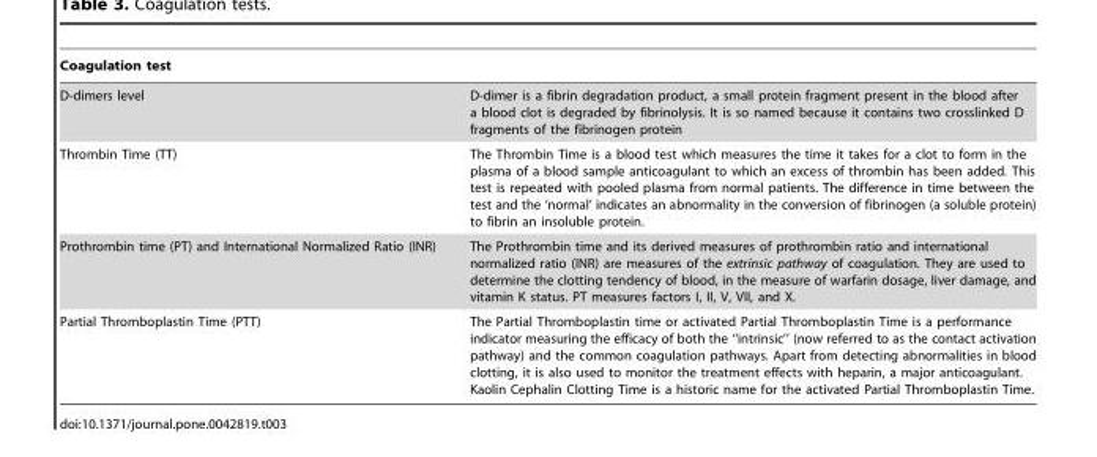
<table><thead><tr><td>Coagulation test</td><td></td></tr></thead><tbody><tr><td>D-dimers level</td><td>D-dimer is a fibrin degradation product, a small protein fragment present in the blood after a blood clot is degraded by fibrinolysis. It is so named because it contains two crosslinked D fragments of the fibrinogen protein</td></tr><tr><td>Thrombin Time (TT)</td><td>The Thrombin Time is a blood test which measures the time it takes for a clot to form in the plasma of a blood sample anticoagulant to which an excess of thrombin has been added. This test is repeated with pooled plasma from normal patients. The difference in time between the test and the ‘normal’ indicates an abnormality in the conversion of fibrinogen (a soluble protein) to fibrin an insoluble protein.</td></tr><tr><td>Prothrombin time (PT) and International Normalized Ratio (INR)</td><td>The Prothrombin time and its derived measures of prothrombin ratio and international normalized ratio (INR) are measures of the extrinsic pathway of coagulation. They are used to determine the clotting tendency of blood, in the measure of warfarin dosage, liver damage, and vitamin K status. PT measures factors I, II, V, VII, and X.</td></tr><tr><td>Partial Thromboplastin Time (PTT)</td><td>The Partial Thromboplastin time or activated Partial Thromboplastin Time is a performance indicator measuring the efficacy of both the ‘‘intrinsic’’ (now referred to as the contact activation pathway) and the common coagulation pathways. Apart from detecting abnormalities in blood clotting, it is also used to monitor the treatment effects with heparin, a major anticoagulant. Kaolin Cephalin Clotting Time is a historic name for the activated Partial Thromboplastin Time.</td></tr></tbody></table>